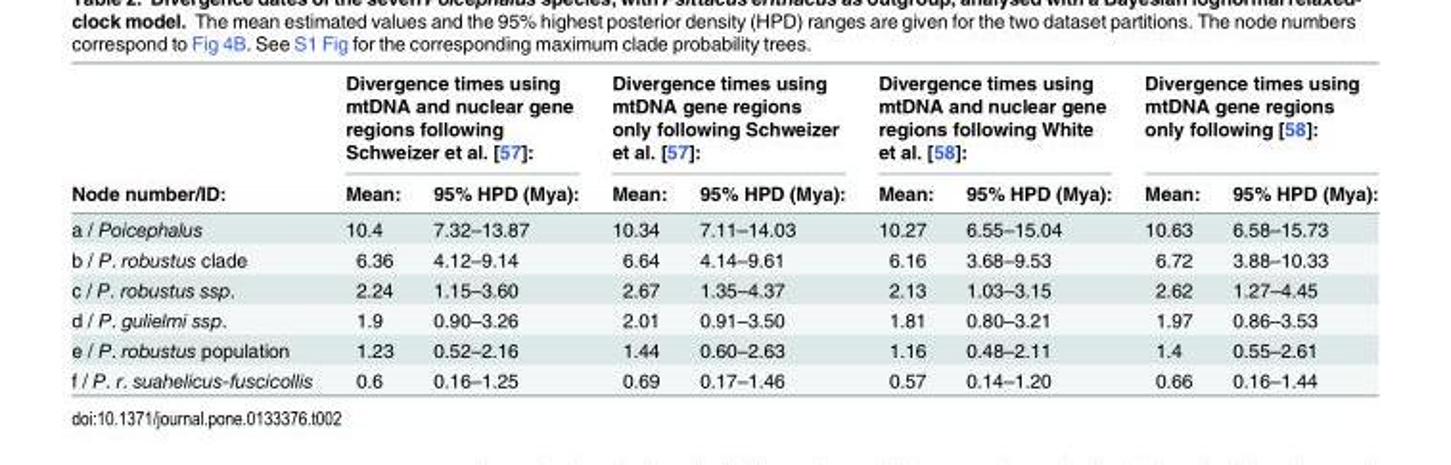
<table><thead><tr><td rowspan="2">Node number/ID:</td><td colspan="2">Divergence times using mtDNA and nuclear gene regions following Schweizer et al. [57]:</td><td colspan="2">Divergence times using mtDNA gene regions only following Schweizer et al. [57]:</td><td colspan="2">Divergence times using mtDNA and nuclear gene regions following White et al. [58]:</td><td colspan="2">Divergence times using mtDNA gene regions only following [58]:</td></tr><tr><td>Mean:</td><td>95% HPD (Mya):</td><td>Mean:</td><td>95% HPD (Mya):</td><td>Mean:</td><td>95% HPD (Mya):</td><td>Mean:</td><td>95% HPD (Mya):</td></tr></thead><tbody><tr><td>a / Poicephalus</td><td>10.4</td><td>7.32–13.87</td><td>10.34</td><td>7.11–14.03</td><td>10.27</td><td>6.55–15.04</td><td>10.63</td><td>6.58–15.73</td></tr><tr><td>b / P. robustus clade</td><td>6.36</td><td>4.12–9.14</td><td>6.64</td><td>4.14–9.61</td><td>6.16</td><td>3.68–9.53</td><td>6.72</td><td>3.88–10.33</td></tr><tr><td>c / P. robustus ssp.</td><td>2.24</td><td>1.15–3.60</td><td>2.67</td><td>1.35–4.37</td><td>2.13</td><td>1.03–3.15</td><td>2.62</td><td>1.27–4.45</td></tr><tr><td>d / P. gulielmi ssp.</td><td>1.9</td><td>0.90–3.26</td><td>2.01</td><td>0.91–3.50</td><td>1.81</td><td>0.80–3.21</td><td>1.97</td><td>0.86–3.53</td></tr><tr><td>e / P. robustus population</td><td>1.23</td><td>0.52–2.16</td><td>1.44</td><td>0.60–2.63</td><td>1.16</td><td>0.48–2.11</td><td>1.4</td><td>0.55–2.61</td></tr><tr><td>f / P. r. suahelicus-fuscicollis</td><td>0.6</td><td>0.16–1.25</td><td>0.69</td><td>0.17–1.46</td><td>0.57</td><td>0.14–1.20</td><td>0.66</td><td>0.16–1.44</td></tr></tbody></table>